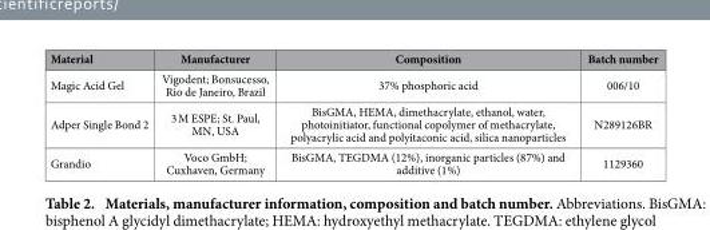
<table><thead><tr><td>Material</td><td>Manufacturer</td><td>Composition</td><td>Batch number</td></tr></thead><tbody><tr><td>Magic Acid Gel</td><td>Vigodent; Bonsucesso, Rio de Janeiro, Brazil</td><td>37% phosphoric acid</td><td>006/10</td></tr><tr><td>Adper Single Bond 2</td><td>3 M ESPE; St. Paul, MN, USA</td><td>BisGMA, HEMA, dimethacrylate, ethanol, water, photoinitiator, functional copolymer of methacrylate, polyacrylic acid and polyitaconic acid, silica nanoparticles</td><td>N289126BR</td></tr><tr><td>Grandio</td><td>Voco GmbH; Cuxhaven, Germany</td><td>BisGMA, TEGDMA (12%), inorganic particles (87%) and additive (1%)</td><td>1129360</td></tr></tbody></table>